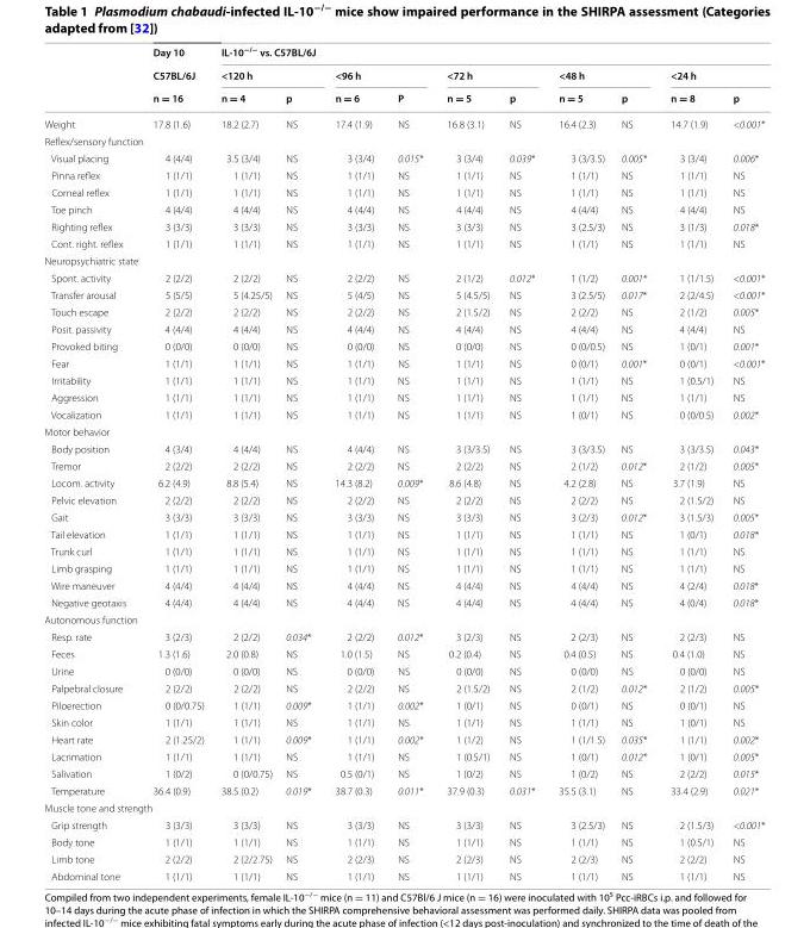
<table><thead><tr><td rowspan="3"></td><td rowspan="3">Day 10 C57BL/6J n = 16</td><td colspan="10">IL‑10<sup>−/−</sup> vs. C57BL/6J</td></tr><tr><td colspan="2">&lt;120 h</td><td colspan="2">&lt;96 h</td><td colspan="2">&lt;72 h</td><td colspan="2">&lt;48 h</td><td colspan="2">&lt;24 h</td></tr><tr><td>n = 4</td><td>p</td><td>n = 6</td><td>P</td><td>n = 5</td><td>p</td><td>n = 5</td><td>p</td><td>n = 8</td><td>p</td></tr></thead><tbody><tr><td>Weight</td><td>17.8 (1.6)</td><td>18.2 (2.7)</td><td>NS</td><td>17.4 (1.9)</td><td>NS</td><td>16.8 (3.1)</td><td>NS</td><td>16.4 (2.3)</td><td>NS</td><td>14.7 (1.9)</td><td>&lt;0.001*</td></tr><tr><td colspan="12">Reflex/sensory function</td></tr><tr><td>Visual placing</td><td>4 (4/4)</td><td>3.5 (3/4)</td><td>NS</td><td>3 (3/4)</td><td>0.015*</td><td>3 (3/4)</td><td>0.039*</td><td>3 (3/3.5)</td><td>0.005*</td><td>3 (3/4)</td><td>0.006*</td></tr><tr><td>Pinna reflex</td><td>1 (1/1)</td><td>1 (1/1)</td><td>NS</td><td>1 (1/1)</td><td>NS</td><td>1 (1/1)</td><td>NS</td><td>1 (1/1)</td><td>NS</td><td>1 (1/1)</td><td>NS</td></tr><tr><td>Corneal reflex</td><td>1 (1/1)</td><td>1 (1/1)</td><td>NS</td><td>1 (1/1)</td><td>NS</td><td>1 (1/1)</td><td>NS</td><td>1 (1/1)</td><td>NS</td><td>1 (1/1)</td><td>NS</td></tr><tr><td>Toe pinch</td><td>4 (4/4)</td><td>4 (4/4)</td><td>NS</td><td>4 (4/4)</td><td>NS</td><td>4 (4/4)</td><td>NS</td><td>4 (4/4)</td><td>NS</td><td>4 (4/4)</td><td>NS</td></tr><tr><td>Righting reflex</td><td>3 (3/3)</td><td>3 (3/3)</td><td>NS</td><td>3 (3/3)</td><td>NS</td><td>3 (3/3)</td><td>NS</td><td>3 (2.5/3)</td><td>NS</td><td>3 (1/3)</td><td>0.018*</td></tr><tr><td>Cont. right. reflex</td><td>1 (1/1)</td><td>1 (1/1)</td><td>NS</td><td>1 (1/1)</td><td>NS</td><td>1 (1/1)</td><td>NS</td><td>1 (1/1)</td><td>NS</td><td>1 (1/1)</td><td>NS</td></tr><tr><td colspan="12">Neuropsychiatric state</td></tr><tr><td>Spont. activity</td><td>2 (2/2)</td><td>2 (2/2)</td><td>NS</td><td>2 (2/2)</td><td>NS</td><td>2 (1/2)</td><td>0.012*</td><td>1 (1/2)</td><td>0.001*</td><td>1 (1/1.5)</td><td>&lt;0.001*</td></tr><tr><td>Transfer arousal</td><td>5 (5/5)</td><td>5 (4.25/5)</td><td>NS</td><td>5 (4/5)</td><td>NS</td><td>5 (4.5/5)</td><td>NS</td><td>3 (2.5/5)</td><td>0.017*</td><td>2 (2/4.5)</td><td>&lt;0.001*</td></tr><tr><td>Touch escape</td><td>2 (2/2)</td><td>2 (2/2)</td><td>NS</td><td>2 (2/2)</td><td>NS</td><td>2 (1.5/2)</td><td>NS</td><td>2 (2/2)</td><td>NS</td><td>2 (1/2)</td><td>0.005*</td></tr><tr><td>Posit. passivity</td><td>4 (4/4)</td><td>4 (4/4)</td><td>NS</td><td>4 (4/4)</td><td>NS</td><td>4 (4/4)</td><td>NS</td><td>4 (4/4)</td><td>NS</td><td>4 (4/4)</td><td>NS</td></tr><tr><td>Provoked biting</td><td>0 (0/0)</td><td>0 (0/0)</td><td>NS</td><td>0 (0/0)</td><td>NS</td><td>0 (0/0)</td><td>NS</td><td>0 (0/0.5)</td><td>NS</td><td>1 (0/1)</td><td>0.001*</td></tr><tr><td>Fear</td><td>1 (1/1)</td><td>1 (1/1)</td><td>NS</td><td>1 (1/1)</td><td>NS</td><td>1 (1/1)</td><td>NS</td><td>0 (0/1)</td><td>0.001*</td><td>0 (0/1)</td><td>&lt;0.001*</td></tr><tr><td>Irritability</td><td>1 (1/1)</td><td>1 (1/1)</td><td>NS</td><td>1 (1/1)</td><td>NS</td><td>1 (1/1)</td><td>NS</td><td>1 (1/1)</td><td>NS</td><td>1 (0.5/1)</td><td>NS</td></tr><tr><td>Aggression</td><td>1 (1/1)</td><td>1 (1/1)</td><td>NS</td><td>1 (1/1)</td><td>NS</td><td>1 (1/1)</td><td>NS</td><td>1 (1/1)</td><td>NS</td><td>1 (1/1)</td><td>NS</td></tr><tr><td>Vocalization</td><td>1 (1/1)</td><td>1 (1/1)</td><td>NS</td><td>1 (1/1)</td><td>NS</td><td>1 (1/1)</td><td>NS</td><td>1 (0/1)</td><td>NS</td><td>0 (0/0.5)</td><td>0.002*</td></tr><tr><td colspan="12">Motor behavior</td></tr><tr><td>Body position</td><td>4 (3/4)</td><td>4 (4/4)</td><td>NS</td><td>4 (4/4)</td><td>NS</td><td>3 (3/3.5)</td><td>NS</td><td>3 (3/3.5)</td><td>NS</td><td>3 (3/3.5)</td><td>0.043*</td></tr><tr><td>Tremor</td><td>2 (2/2)</td><td>2 (2/2)</td><td>NS</td><td>2 (2/2)</td><td>NS</td><td>2 (2/2)</td><td>NS</td><td>2 (1/2)</td><td>0.012*</td><td>2 (1/2)</td><td>0.005*</td></tr><tr><td>Locom. activity</td><td>6.2 (4.9)</td><td>8.8 (5.4)</td><td>NS</td><td>14.3 (8.2)</td><td>0.009*</td><td>8.6 (4.8)</td><td>NS</td><td>4.2 (2.8)</td><td>NS</td><td>3.7 (1.9)</td><td>NS</td></tr><tr><td>Pelvic elevation</td><td>2 (2/2)</td><td>2 (2/2)</td><td>NS</td><td>2 (2/2)</td><td>NS</td><td>2 (2/2)</td><td>NS</td><td>2 (2/2)</td><td>NS</td><td>2 (1.5/2)</td><td>NS</td></tr><tr><td>Gait</td><td>3 (3/3)</td><td>3 (3/3)</td><td>NS</td><td>3 (3/3)</td><td>NS</td><td>3 (3/3)</td><td>NS</td><td>3 (2/3)</td><td>0.012*</td><td>3 (1.5/3)</td><td>0.005*</td></tr><tr><td>Tail elevation</td><td>1 (1/1)</td><td>1 (1/1)</td><td>NS</td><td>1 (1/1)</td><td>NS</td><td>1 (1/1)</td><td>NS</td><td>1 (1/1)</td><td>NS</td><td>1 (0/1)</td><td>0.018*</td></tr><tr><td>Trunk curl</td><td>1 (1/1)</td><td>1 (1/1)</td><td>NS</td><td>1 (1/1)</td><td>NS</td><td>1 (1/1)</td><td>NS</td><td>1 (1/1)</td><td>NS</td><td>1 (1/1)</td><td>NS</td></tr><tr><td>Limb grasping</td><td>1 (1/1)</td><td>1 (1/1)</td><td>NS</td><td>1 (1/1)</td><td>NS</td><td>1 (1/1)</td><td>NS</td><td>1 (1/1)</td><td>NS</td><td>1 (1/1)</td><td>NS</td></tr><tr><td>Wire maneuver</td><td>4 (4/4)</td><td>4 (4/4)</td><td>NS</td><td>4 (4/4)</td><td>NS</td><td>4 (4/4)</td><td>NS</td><td>4 (4/4)</td><td>NS</td><td>4 (2/4)</td><td>0.018*</td></tr><tr><td>Negative geotaxis</td><td>4 (4/4)</td><td>4 (4/4)</td><td>NS</td><td>4 (4/4)</td><td>NS</td><td>4 (4/4)</td><td>NS</td><td>4 (4/4)</td><td>NS</td><td>4 (0/4)</td><td>0.018*</td></tr><tr><td colspan="12">Autonomous function</td></tr><tr><td>Resp. rate</td><td>3 (2/3)</td><td>2 (2/2)</td><td>0.034*</td><td>2 (2/2)</td><td>0.012*</td><td>3 (2/3)</td><td>NS</td><td>2 (2/3)</td><td>NS</td><td>2 (2/3)</td><td>NS</td></tr><tr><td>Feces</td><td>1.3 (1.6)</td><td>2.0 (0.8)</td><td>NS</td><td>1.0 (1.5)</td><td>NS</td><td>0.2 (0.4)</td><td>NS</td><td>0.4 (0.5)</td><td>NS</td><td>0.4 (1.0)</td><td>NS</td></tr><tr><td>Urine</td><td>0 (0/0)</td><td>0 (0/0)</td><td>NS</td><td>0 (0/0)</td><td>NS</td><td>0 (0/0)</td><td>NS</td><td>0 (0/0)</td><td>NS</td><td>0 (0/0)</td><td>NS</td></tr><tr><td>Palpebral closure</td><td>2 (2/2)</td><td>2 (2/2)</td><td>NS</td><td>2 (2/2)</td><td>NS</td><td>2 (1.5/2)</td><td>NS</td><td>2 (1/2)</td><td>0.012*</td><td>2 (1/2)</td><td>0.005*</td></tr><tr><td>Piloerection</td><td>0 (0/0.75)</td><td>1 (1/1)</td><td>0.009*</td><td>1 (1/1)</td><td>0.002*</td><td>1 (0/1)</td><td>NS</td><td>0 (0/1)</td><td>NS</td><td>0 (0/1)</td><td>NS</td></tr><tr><td>Skin color</td><td>1 (1/1)</td><td>1 (1/1)</td><td>NS</td><td>1 (1/1)</td><td>NS</td><td>1 (1/1)</td><td>NS</td><td>1 (1/1)</td><td>NS</td><td>1 (0/1)</td><td>NS</td></tr><tr><td>Heart rate</td><td>2 (1.25/2)</td><td>1 (1/1)</td><td>0.009*</td><td>1 (1/1)</td><td>0.002*</td><td>1 (1/2)</td><td>NS</td><td>1 (1/1.5)</td><td>0.035*</td><td>1 (1/1)</td><td>0.002*</td></tr><tr><td>Lacrimation</td><td>1 (1/1)</td><td>1 (1/1)</td><td>NS</td><td>1 (1/1)</td><td>NS</td><td>1 (0.5/1)</td><td>NS</td><td>1 (0/1)</td><td>0.012*</td><td>1 (0/1)</td><td>0.005*</td></tr><tr><td>Salivation</td><td>1 (0/2)</td><td>0 (0/0.75)</td><td>NS</td><td>0.5 (0/1)</td><td>NS</td><td>1 (0/2)</td><td>NS</td><td>1 (0/2)</td><td>NS</td><td>2 (2/2)</td><td>0.015*</td></tr><tr><td>Temperature</td><td>36.4 (0.9)</td><td>38.5 (0.2)</td><td>0.019*</td><td>38.7 (0.3)</td><td>0.011*</td><td>37.9 (0.3)</td><td>0.031*</td><td>35.5 (3.1)</td><td>NS</td><td>33.4 (2.9)</td><td>0.021*</td></tr><tr><td colspan="12">Muscle tone and strength</td></tr><tr><td>Grip strength</td><td>3 (3/3)</td><td>3 (3/3)</td><td>NS</td><td>3 (3/3)</td><td>NS</td><td>3 (3/3)</td><td>NS</td><td>3 (2.5/3)</td><td>NS</td><td>2 (1.5/3)</td><td>&lt;0.001*</td></tr><tr><td>Body tone</td><td>1 (1/1)</td><td>1 (1/1)</td><td>NS</td><td>1 (1/1)</td><td>NS</td><td>1 (1/1)</td><td>NS</td><td>1 (1/1)</td><td>NS</td><td>1 (0.5/1)</td><td>NS</td></tr><tr><td>Limb tone</td><td>2 (2/2)</td><td>2 (2/2.75)</td><td>NS</td><td>2 (2/3)</td><td>NS</td><td>2 (2/3)</td><td>NS</td><td>2 (2/3)</td><td>NS</td><td>2 (2/2)</td><td>NS</td></tr><tr><td>Abdominal tone</td><td>1 (1/1)</td><td>1 (1/1)</td><td>NS</td><td>1 (1/1)</td><td>NS</td><td>1 (1/1)</td><td>NS</td><td>1 (1/1)</td><td>NS</td><td>1 (1/1)</td><td>NS</td></tr></tbody></table>